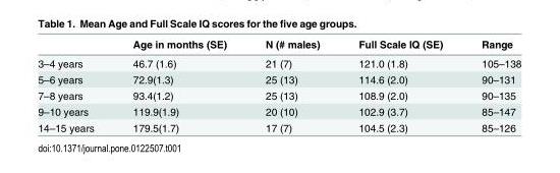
<table><thead><tr><td></td><td>Age in months (SE)</td><td>N (# males)</td><td>Full Scale IQ (SE)</td><td>Range</td></tr></thead><tbody><tr><td>3–4 years</td><td>46.7 (1.6)</td><td>21 (7)</td><td>121.0 (1.8)</td><td>105–138</td></tr><tr><td>5–6 years</td><td>72.9(1.3)</td><td>25 (13)</td><td>114.6 (2.0)</td><td>90–131</td></tr><tr><td>7–8 years</td><td>93.4(1.2)</td><td>25 (13)</td><td>108.9 (2.0)</td><td>90–135</td></tr><tr><td>9–10 years</td><td>119.9(1.9)</td><td>20 (10)</td><td>102.9 (3.7)</td><td>85–147</td></tr><tr><td>14–15 years</td><td>179.5(1.7)</td><td>17 (7)</td><td>104.5 (2.3)</td><td>85–126</td></tr></tbody></table>